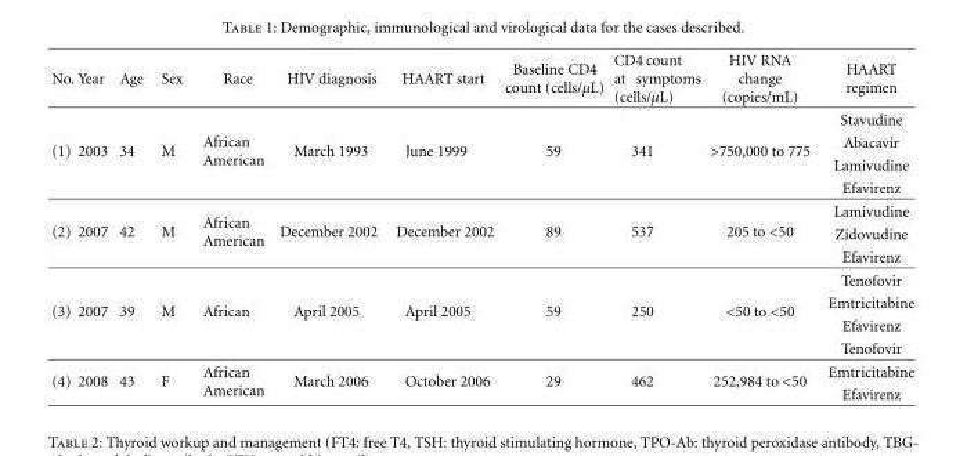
<table><thead><tr><td>No.</td><td>Year</td><td>Age</td><td>Sex</td><td>Race</td><td>HIV diagnosis</td><td>HAART start</td><td>Baseline CD4 count (cells/μL)</td><td>CD4 count at symptoms (cells/μL)</td><td>HIV RNA change (copies/mL)</td><td>HAART regimen</td></tr></thead><tbody><tr><td rowspan="4">(1)</td><td rowspan="4">2003</td><td rowspan="4">34</td><td rowspan="4">M</td><td rowspan="4">African American</td><td rowspan="4">March 1993</td><td rowspan="4">June 1999</td><td rowspan="4">59</td><td rowspan="4">341</td><td rowspan="4">&gt;750,000 to 775</td><td>Stavudine</td></tr><tr><td>Abacavir</td></tr><tr><td>Lamivudine</td></tr><tr><td>Efavirenz</td></tr><tr><td rowspan="3">(2)</td><td rowspan="3">2007</td><td rowspan="3">42</td><td rowspan="3">M</td><td rowspan="3">African American</td><td rowspan="3">December 2002</td><td rowspan="3">December 2002</td><td rowspan="3">89</td><td rowspan="3">537</td><td rowspan="3">205 to &lt;50</td><td>Lamivudine</td></tr><tr><td>Zidovudine</td></tr><tr><td>Efavirenz</td></tr><tr><td rowspan="4">(3)</td><td rowspan="4">2007</td><td rowspan="4">39</td><td rowspan="4">M</td><td rowspan="4">African</td><td rowspan="4">April 2005</td><td rowspan="4">April 2005</td><td rowspan="4">59</td><td rowspan="4">250</td><td rowspan="4">&lt;50 to &lt;50</td><td>Tenofovir</td></tr><tr><td>Emtricitabine</td></tr><tr><td>Efavirenz</td></tr><tr><td>Tenofovir</td></tr><tr><td rowspan="2">(4)</td><td rowspan="2">2008</td><td rowspan="2">43</td><td rowspan="2">F</td><td rowspan="2">African American</td><td rowspan="2">March 2006</td><td rowspan="2">October 2006</td><td rowspan="2">29</td><td rowspan="2">462</td><td rowspan="2">252,984 to &lt;50</td><td>Emtricitabine</td></tr><tr><td>Efavirenz</td></tr></tbody></table>